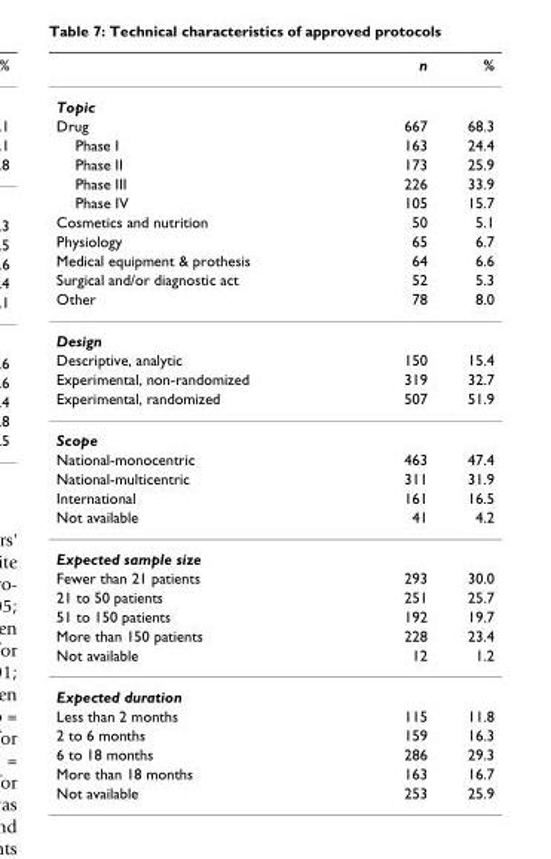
<table><thead><tr><td></td><td>n</td><td>%</td></tr></thead><tbody><tr><td colspan="3">Topic</td></tr><tr><td>Drug</td><td>667</td><td>68.3</td></tr><tr><td>Phase I</td><td>163</td><td>24.4</td></tr><tr><td>Phase II</td><td>173</td><td>25.9</td></tr><tr><td>Phase III</td><td>226</td><td>33.9</td></tr><tr><td>Phase IV</td><td>105</td><td>15.7</td></tr><tr><td>Cosmetics and nutrition</td><td>50</td><td>5.1</td></tr><tr><td>Physiology</td><td>65</td><td>6.7</td></tr><tr><td>Medical equipment &amp; prothesis</td><td>64</td><td>6.6</td></tr><tr><td>Surgical and/or diagnostic act</td><td>52</td><td>5.3</td></tr><tr><td>Other</td><td>78</td><td>8.0</td></tr><tr><td colspan="3">Design</td></tr><tr><td>Descriptive, analytic</td><td>150</td><td>15.4</td></tr><tr><td>Experimental, non-randomized</td><td>319</td><td>32.7</td></tr><tr><td>Experimental, randomized</td><td>507</td><td>51.9</td></tr><tr><td colspan="3">Scope</td></tr><tr><td>National-monocentric</td><td>463</td><td>47.4</td></tr><tr><td>National-multicentric</td><td>311</td><td>31.9</td></tr><tr><td>International</td><td>161</td><td>16.5</td></tr><tr><td>Not available</td><td>41</td><td>4.2</td></tr><tr><td colspan="3">Expected sample size</td></tr><tr><td>Fewer than 21 patients</td><td>293</td><td>30.0</td></tr><tr><td>21 to 50 patients</td><td>251</td><td>25.7</td></tr><tr><td>51 to 150 patients</td><td>192</td><td>19.7</td></tr><tr><td>More than 150 patients</td><td>228</td><td>23.4</td></tr><tr><td>Not available</td><td>12</td><td>1.2</td></tr><tr><td colspan="3">Expected duration</td></tr><tr><td>Less than 2 months</td><td>115</td><td>11.8</td></tr><tr><td>2 to 6 months</td><td>159</td><td>16.3</td></tr><tr><td>6 to 18 months</td><td>286</td><td>29.3</td></tr><tr><td>More than 18 months</td><td>163</td><td>16.7</td></tr><tr><td>Not available</td><td>253</td><td>25.9</td></tr></tbody></table>